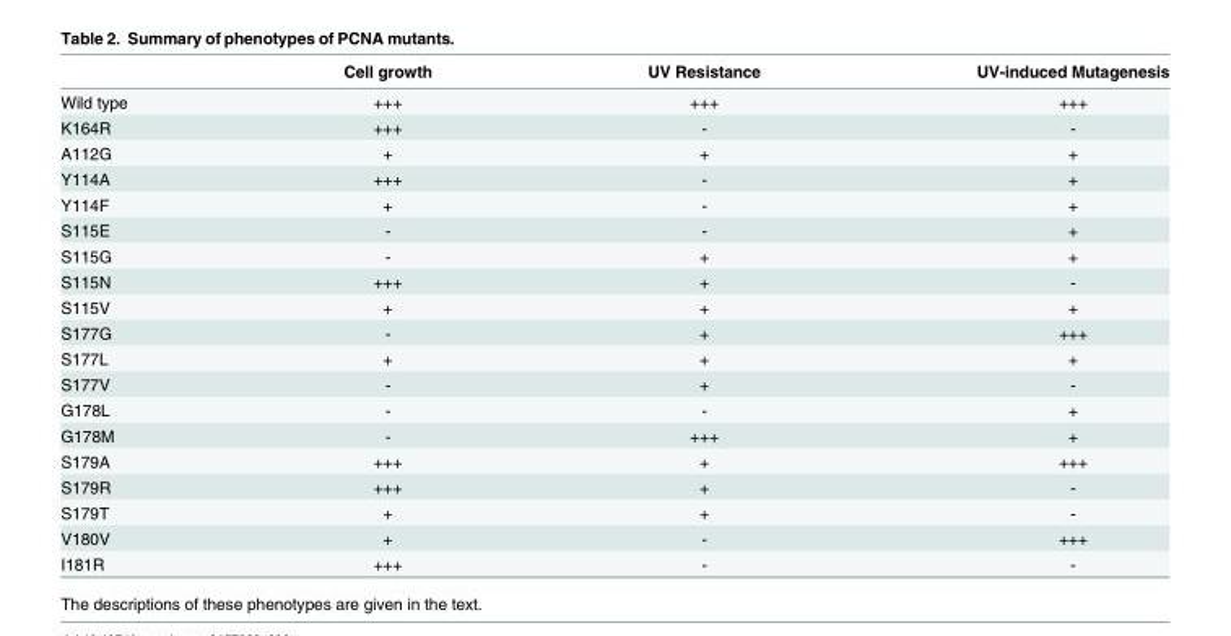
<table><thead><tr><td></td><td>Cell growth</td><td>UV Resistance</td><td>UV-induced Mutagenesis</td></tr></thead><tbody><tr><td>Wild type</td><td>+++</td><td>+++</td><td>+++</td></tr><tr><td>K164R</td><td>+++</td><td>-</td><td>-</td></tr><tr><td>A112G</td><td>+</td><td>+</td><td>+</td></tr><tr><td>Y114A</td><td>+++</td><td>-</td><td>+</td></tr><tr><td>Y114F</td><td>+</td><td>-</td><td>+</td></tr><tr><td>S115E</td><td>-</td><td>-</td><td>+</td></tr><tr><td>S115G</td><td>-</td><td>+</td><td>+</td></tr><tr><td>S115N</td><td>+++</td><td>+</td><td>-</td></tr><tr><td>S115V</td><td>+</td><td>+</td><td>+</td></tr><tr><td>S177G</td><td>-</td><td>+</td><td>+++</td></tr><tr><td>S177L</td><td>+</td><td>+</td><td>+</td></tr><tr><td>S177V</td><td>-</td><td>+</td><td>-</td></tr><tr><td>G178L</td><td>-</td><td>-</td><td>+</td></tr><tr><td>G178M</td><td>-</td><td>+++</td><td>+</td></tr><tr><td>S179A</td><td>+++</td><td>+</td><td>+++</td></tr><tr><td>S179R</td><td>+++</td><td>+</td><td>-</td></tr><tr><td>S179T</td><td>+</td><td>+</td><td>-</td></tr><tr><td>V180V</td><td>+</td><td>-</td><td>+++</td></tr><tr><td>I181R</td><td>+++</td><td>-</td><td>-</td></tr></tbody></table>